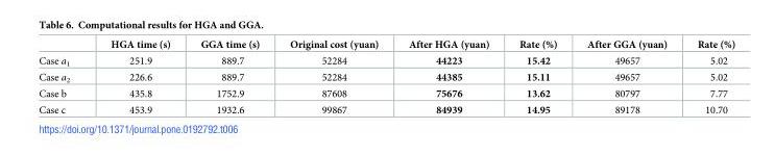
<table><thead><tr><td></td><td>HGA time (s)</td><td>GGA time (s)</td><td>Original cost (yuan)</td><td>After HGA (yuan)</td><td>Rate (%)</td><td>After GGA (yuan)</td><td>Rate (%)</td></tr></thead><tbody><tr><td>Case a<sub>1</sub></td><td>251.9</td><td>889.7</td><td>52284</td><td>44223</td><td>15.42</td><td>49657</td><td>5.02</td></tr><tr><td>Case a<sub>2</sub></td><td>226.6</td><td>889.7</td><td>52284</td><td>44385</td><td>15.11</td><td>49657</td><td>5.02</td></tr><tr><td>Case b</td><td>435.8</td><td>1752.9</td><td>87608</td><td>75676</td><td>13.62</td><td>80797</td><td>7.77</td></tr><tr><td>Case c</td><td>453.9</td><td>1932.6</td><td>99867</td><td>84939</td><td>14.95</td><td>89178</td><td>10.70</td></tr></tbody></table>